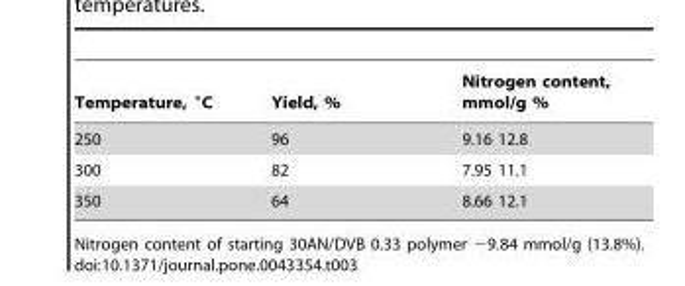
<table><thead><tr><td>Temperature, °C</td><td>Yield, %</td><td>Nitrogen content, mmol/g %</td></tr></thead><tbody><tr><td>250</td><td>96</td><td>9.16 12.8</td></tr><tr><td>300</td><td>82</td><td>7.95 11.1</td></tr><tr><td>350</td><td>64</td><td>8.66 12.1</td></tr></tbody></table>